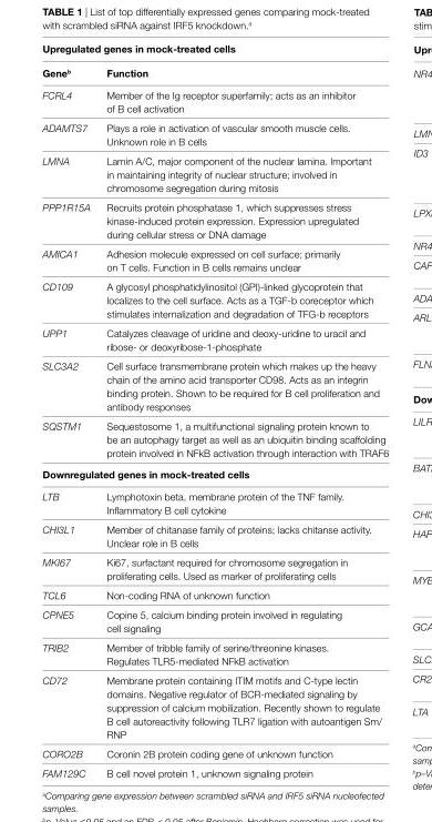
<table><thead><tr><td colspan="2">Upregulated genes in mock-treated cells</td></tr><tr><td>gene<sup>b</sup></td><td>Function</td></tr></thead><tbody><tr><td>FCRL4</td><td>Member of the Ig receptor superfamily; acts as an inhibitor of B cell activation</td></tr><tr><td>ADAMTS7</td><td>Plays a role in activation of vascular smooth muscle cells. Unknown role in B cells</td></tr><tr><td>LMNA</td><td>Lamin A/C, major component of the nuclear lamina. Important in maintaining integrity of nuclear structure; involved in chromosome segregation during mitosis</td></tr><tr><td>PPP1R15A</td><td>Recruits protein phosphatase 1, which suppresses stress kinase-induced protein expression. Expression upregulated during cellular stress or DNA damage</td></tr><tr><td>AMICA1</td><td>Adhesion molecule expressed on cell surface; primarily on T cells. Function in B cells remains unclear</td></tr><tr><td>CD109</td><td>A glycosyl phosphatidylinositol (GPI)-linked glycoprotein that localizes to the cell surface. Acts as a TGF-b coreceptor which stimulates internalization and degradation of TFG-b receptors</td></tr><tr><td>UPP1</td><td>Catalyzes cleavage of uridine and deoxy-uridine to uracil and ribose- or deoxyribose-1-phosphate</td></tr><tr><td>SLC3A2</td><td>Cell surface transmembrane protein which makes up the heavy chain of the amino acid transporter CD98. Acts as an integrin binding protein. Shown to be required for B cell proliferation and antibody responses</td></tr><tr><td>SQSTM1</td><td>Sequestosome 1, a multifunctional signaling protein known to be an autophagy target as well as an ubiquitin binding scaffolding protein involved in NFkB activation through interaction with TRAF6</td></tr><tr><td colspan="2">Downregulated genes in mock-treated cells</td></tr><tr><td>LTB</td><td>Lymphotoxin beta, membrane protein of the TNF family. Inflammatory B cell cytokine</td></tr><tr><td>CHI3L1</td><td>Member of chitanase family of proteins; lacks chitanse activity. Unclear role in B cells</td></tr><tr><td>MKI67</td><td>Ki67, surfactant required for chromosome segregation in proliferating cells. Used as marker of proliferating cells</td></tr><tr><td>TCL6</td><td>Non-coding RNA of unknown function</td></tr><tr><td>CPNE5</td><td>Copine 5, calcium binding protein involved in regulating cell signaling</td></tr><tr><td>TRIB2</td><td>Member of tribble family of serine/threonine kinases. Regulates TLR5-mediated NFkB activation</td></tr><tr><td>CD72</td><td>Membrane protein containing ITIM motifs and C-type lectin domains. Negative regulator of BCR-mediated signaling by suppression of calcium mobilization. Recently shown to regulate B cell autoreactivity following TLR7 ligation with autoantigen Sm/ RNP</td></tr><tr><td>CORO2B</td><td>Coronin 2B protein coding gene of unknown function</td></tr><tr><td>FAM129C</td><td>B cell novel protein 1, unknown signaling protein</td></tr></tbody></table>